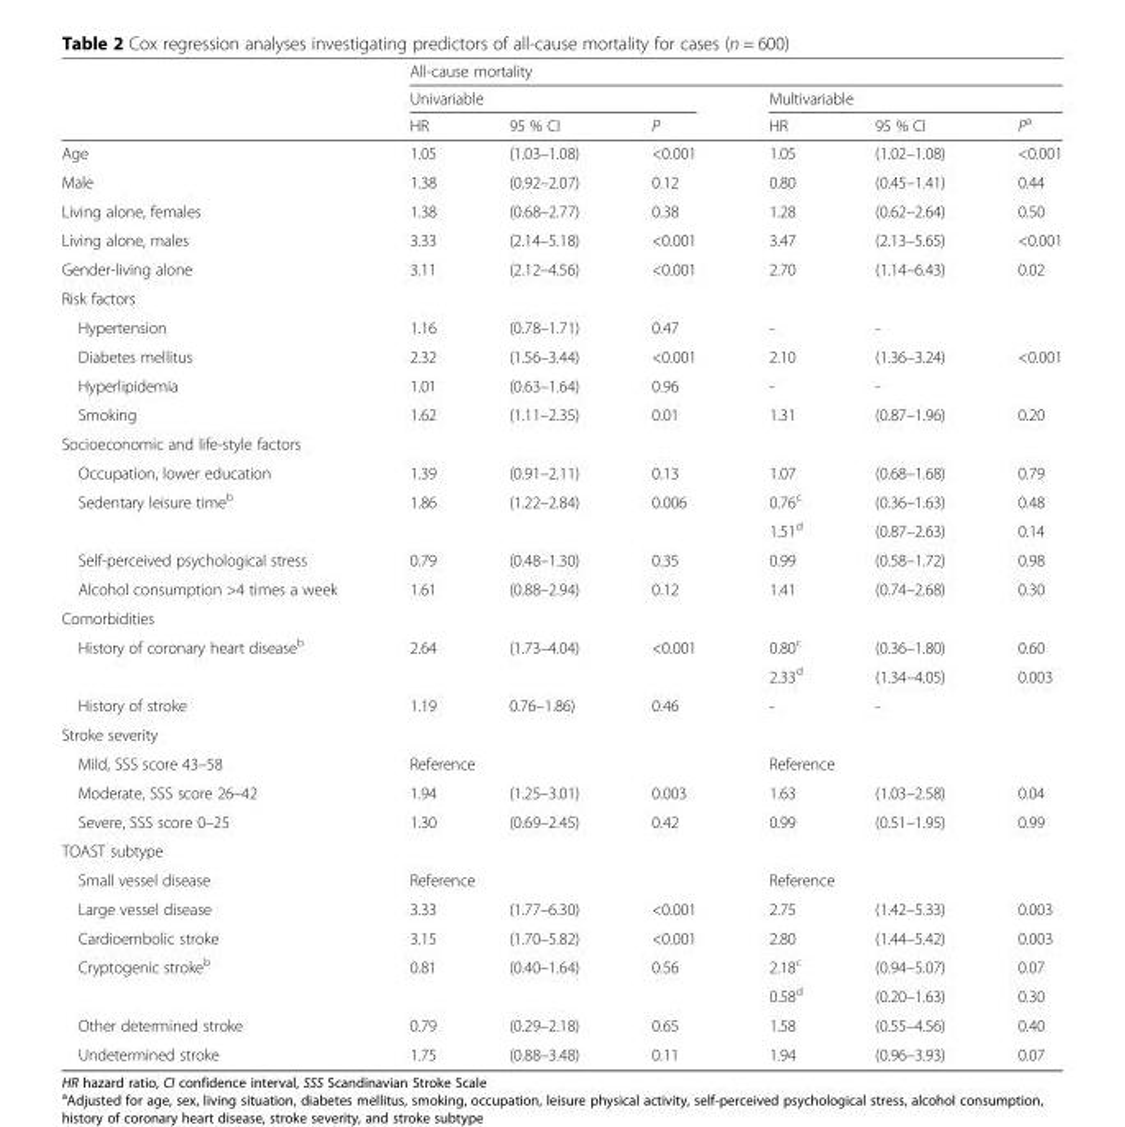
<table><thead><tr><td rowspan="3"></td><td colspan="6">All-cause mortality</td></tr><tr><td colspan="3">Univariable</td><td colspan="3">Multivariable</td></tr><tr><td>HR</td><td>95 % CI</td><td>P</td><td>HR</td><td>95 % CI</td><td>P<sup>a</sup></td></tr></thead><tbody><tr><td>Age</td><td>1.05</td><td>(1.03–1.08)</td><td>&lt;0.001</td><td>1.05</td><td>(1.02–1.08)</td><td>&lt;0.001</td></tr><tr><td>Male</td><td>1.38</td><td>(0.92–2.07)</td><td>0.12</td><td>0.80</td><td>(0.45–1.41)</td><td>0.44</td></tr><tr><td>Living alone, females</td><td>1.38</td><td>(0.68–2.77)</td><td>0.38</td><td>1.28</td><td>(0.62–2.64)</td><td>0.50</td></tr><tr><td>Living alone, males</td><td>3.33</td><td>(2.14–5.18)</td><td>&lt;0.001</td><td>3.47</td><td>(2.13–5.65)</td><td>&lt;0.001</td></tr><tr><td>Gender-living alone</td><td>3.11</td><td>(2.12–4.56)</td><td>&lt;0.001</td><td>2.70</td><td>(1.14–6.43)</td><td>0.02</td></tr><tr><td colspan="7">Risk factors</td></tr><tr><td>Hypertension</td><td>1.16</td><td>(0.78–1.71)</td><td>0.47</td><td>-</td><td>-</td><td></td></tr><tr><td>Diabetes mellitus</td><td>2.32</td><td>(1.56–3.44)</td><td>&lt;0.001</td><td>2.10</td><td>(1.36–3.24)</td><td>&lt;0.001</td></tr><tr><td>Hyperlipidemia</td><td>1.01</td><td>(0.63–1.64)</td><td>0.96</td><td>-</td><td>-</td><td></td></tr><tr><td>Smoking</td><td>1.62</td><td>(1.11–2.35)</td><td>0.01</td><td>1.31</td><td>(0.87–1.96)</td><td>0.20</td></tr><tr><td colspan="7">Socioeconomic and life-style factors</td></tr><tr><td>Occupation, lower education</td><td>1.39</td><td>(0.91–2.11)</td><td>0.13</td><td>1.07</td><td>(0.68–1.68)</td><td>0.79</td></tr><tr><td rowspan="2">Sedentary leisure time<sup>b</sup></td><td rowspan="2">1.86</td><td rowspan="2">(1.22–2.84)</td><td rowspan="2">0.006</td><td>0.76<sup>c</sup></td><td>(0.36–1.63)</td><td>0.48</td></tr><tr><td>1.51<sup>d</sup></td><td>(0.87–2.63)</td><td>0.14</td></tr><tr><td>Self-perceived psychological stress</td><td>0.79</td><td>(0.48–1.30)</td><td>0.35</td><td>0.99</td><td>(0.58–1.72)</td><td>0.98</td></tr><tr><td>Alcohol consumption &gt;4 times a week</td><td>1.61</td><td>(0.88–2.94)</td><td>0.12</td><td>1.41</td><td>(0.74–2.68)</td><td>0.30</td></tr><tr><td colspan="7">Comorbidities</td></tr><tr><td rowspan="2">History of coronary heart disease<sup>b</sup></td><td rowspan="2">2.64</td><td rowspan="2">(1.73–4.04)</td><td rowspan="2">&lt;0.001</td><td>0.80<sup>c</sup></td><td>(0.36–1.80)</td><td>0.60</td></tr><tr><td>2.33<sup>d</sup></td><td>(1.34–4.05)</td><td>0.003</td></tr><tr><td>History of stroke</td><td>1.19</td><td>0.76–1.86)</td><td>0.46</td><td>-</td><td>-</td><td></td></tr><tr><td colspan="7">Stroke severity</td></tr><tr><td>Mild, SSS score 43–58</td><td colspan="3">Reference</td><td colspan="3">Reference</td></tr><tr><td>Moderate, SSS score 26–42</td><td>1.94</td><td>(1.25–3.01)</td><td>0.003</td><td>1.63</td><td>(1.03–2.58)</td><td>0.04</td></tr><tr><td>Severe, SSS score 0–25</td><td>1.30</td><td>(0.69–2.45)</td><td>0.42</td><td>0.99</td><td>(0.51–1.95)</td><td>0.99</td></tr><tr><td colspan="7">TOAST subtype</td></tr><tr><td>Small vessel disease</td><td colspan="3">Reference</td><td colspan="3">Reference</td></tr><tr><td>Large vessel disease</td><td>3.33</td><td>(1.77–6.30)</td><td>&lt;0.001</td><td>2.75</td><td>(1.42–5.33)</td><td>0.003</td></tr><tr><td>Cardioembolic stroke</td><td>3.15</td><td>(1.70–5.82)</td><td>&lt;0.001</td><td>2.80</td><td>(1.44–5.42)</td><td>0.003</td></tr><tr><td rowspan="2">Cryptogenic stroke<sup>b</sup></td><td rowspan="2">0.81</td><td rowspan="2">(0.40–1.64)</td><td rowspan="2">0.56</td><td>2.18<sup>c</sup></td><td>(0.94–5.07)</td><td>0.07</td></tr><tr><td>0.58<sup>d</sup></td><td>(0.20–1.63)</td><td>0.30</td></tr><tr><td>Other determined stroke</td><td>0.79</td><td>(0.29–2.18)</td><td>0.65</td><td>1.58</td><td>(0.55–4.56)</td><td>0.40</td></tr><tr><td>Undetermined stroke</td><td>1.75</td><td>(0.88–3.48)</td><td>0.11</td><td>1.94</td><td>(0.96–3.93)</td><td>0.07</td></tr></tbody></table>